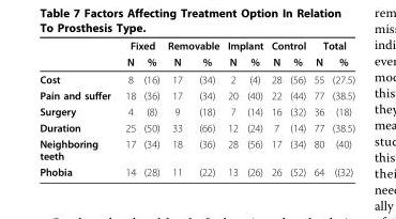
<table><thead><tr><td rowspan="2"></td><td colspan="2">Fixed</td><td colspan="2">Removable</td><td colspan="2">Implant</td><td colspan="2">Control</td><td colspan="2">Total</td></tr><tr><td>N</td><td>%</td><td>N</td><td>%</td><td>N</td><td>%</td><td>N</td><td>%</td><td>N</td><td>%</td></tr></thead><tbody><tr><td>Cost</td><td>8</td><td>(16)</td><td>17</td><td>(34)</td><td>2</td><td>(4)</td><td>28</td><td>(56)</td><td>55</td><td>(27.5)</td></tr><tr><td>Pain and suffer</td><td>18</td><td>(36)</td><td>17</td><td>(34)</td><td>20</td><td>(40)</td><td>22</td><td>(44)</td><td>77</td><td>(38.5)</td></tr><tr><td>Surgery</td><td>4</td><td>(8)</td><td>9</td><td>(18)</td><td>7</td><td>(14)</td><td>16</td><td>(32)</td><td>36</td><td>(18)</td></tr><tr><td>Duration</td><td>25</td><td>(50)</td><td>33</td><td>(66)</td><td>12</td><td>(24)</td><td>7</td><td>(14)</td><td>77</td><td>(38.5)</td></tr><tr><td>Neighboring teeth</td><td>17</td><td>(34)</td><td>18</td><td>(36)</td><td>28</td><td>(56)</td><td>17</td><td>(34)</td><td>80</td><td>(40)</td></tr><tr><td>Phobia</td><td>14</td><td>(28)</td><td>11</td><td>(22)</td><td>13</td><td>(26)</td><td>26</td><td>(52)</td><td>64</td><td>((32)</td></tr></tbody></table>